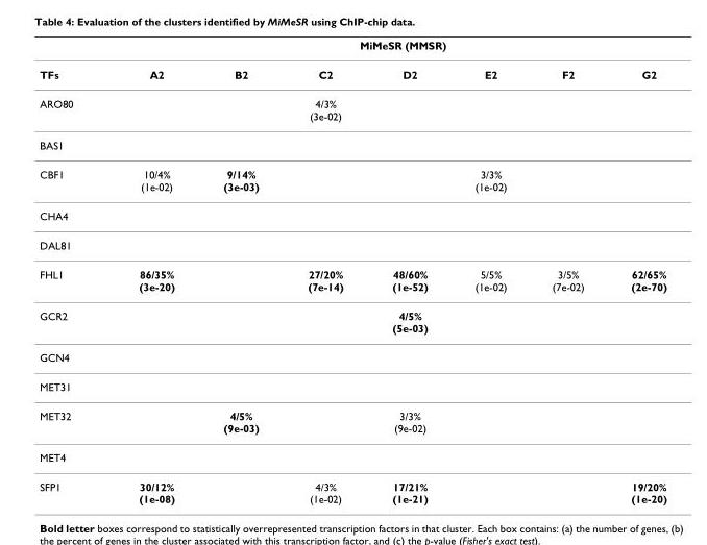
<table><thead><tr><td rowspan="2">TFs</td><td colspan="7">MiMeSR (MMSR)</td></tr><tr><td>A2</td><td>B2</td><td>C2</td><td>D2</td><td>E2</td><td>F2</td><td>G2</td></tr></thead><tbody><tr><td>ARO80</td><td></td><td></td><td>4/3% (3e-02)</td><td></td><td></td><td></td><td></td></tr><tr><td colspan="8">BAS1</td></tr><tr><td>CBF1</td><td>10/4% (1e-02)</td><td>9/14% (3e-03)</td><td></td><td></td><td>3/3% (1e-02)</td><td></td><td></td></tr><tr><td colspan="8">CHA4</td></tr><tr><td colspan="8">DAL81</td></tr><tr><td>FHL1</td><td>86/35% (3e-20)</td><td></td><td>27/20% (7e-14)</td><td>48/60% (1e-52)</td><td>5/5% (1e-02)</td><td>3/5% (7e-02)</td><td>62/65% (2e-70)</td></tr><tr><td>GCR2</td><td></td><td></td><td></td><td>4/5% (5e-03)</td><td></td><td></td><td></td></tr><tr><td colspan="8">GCN4</td></tr><tr><td colspan="8">MET31</td></tr><tr><td>MET32</td><td></td><td>4/5% (9e-03)</td><td></td><td>3/3% (9e-02)</td><td></td><td></td><td></td></tr><tr><td colspan="8">MET4</td></tr><tr><td>SFP1</td><td>30/12% (1e-08)</td><td></td><td>4/3% (1e-02)</td><td>17/21% (1e-21)</td><td></td><td></td><td>19/20% (1e-20)</td></tr></tbody></table>